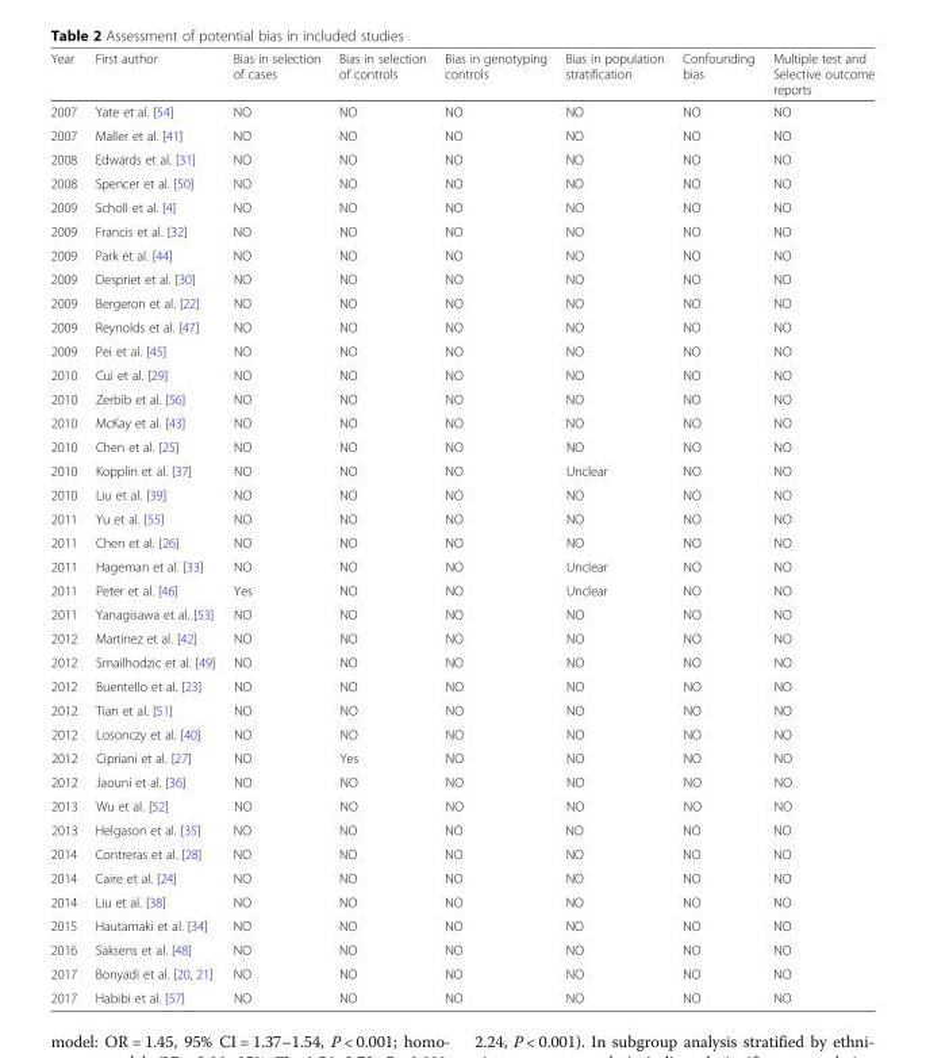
<table><thead><tr><td>Year</td><td>First author</td><td>Bias in selection of cases</td><td>Bias in selection of controls</td><td>Bias in genotyping controls</td><td>Bias in population stratification</td><td>Confounding bias</td><td>Multiple test and Selective outcome reports</td></tr></thead><tbody><tr><td>2007</td><td>Yate et al. [54]</td><td>NO</td><td>NO</td><td>NO</td><td>NO</td><td>NO</td><td>NO</td></tr><tr><td>2007</td><td>Maller et al. [41]</td><td>NO</td><td>NO</td><td>NO</td><td>NO</td><td>NO</td><td>NO</td></tr><tr><td>2008</td><td>Edwards et al. [31]</td><td>NO</td><td>NO</td><td>NO</td><td>NO</td><td>NO</td><td>NO</td></tr><tr><td>2008</td><td>Spencer et al. [50]</td><td>NO</td><td>NO</td><td>NO</td><td>NO</td><td>NO</td><td>NO</td></tr><tr><td>2009</td><td>Scholl et al. [4]</td><td>NO</td><td>NO</td><td>NO</td><td>NO</td><td>NO</td><td>NO</td></tr><tr><td>2009</td><td>Francis et al. [32]</td><td>NO</td><td>NO</td><td>NO</td><td>NO</td><td>NO</td><td>NO</td></tr><tr><td>2009</td><td>Park et al. [44]</td><td>NO</td><td>NO</td><td>NO</td><td>NO</td><td>NO</td><td>NO</td></tr><tr><td>2009</td><td>Despriet et al. [30]</td><td>NO</td><td>NO</td><td>NO</td><td>NO</td><td>NO</td><td>NO</td></tr><tr><td>2009</td><td>Bergeron et al. [22]</td><td>NO</td><td>NO</td><td>NO</td><td>NO</td><td>NO</td><td>NO</td></tr><tr><td>2009</td><td>Reynolds et al. [47]</td><td>NO</td><td>NO</td><td>NO</td><td>NO</td><td>NO</td><td>NO</td></tr><tr><td>2009</td><td>Pei et al. [45]</td><td>NO</td><td>NO</td><td>NO</td><td>NO</td><td>NO</td><td>NO</td></tr><tr><td>2010</td><td>Cui et al. [29]</td><td>NO</td><td>NO</td><td>NO</td><td>NO</td><td>NO</td><td>NO</td></tr><tr><td>2010</td><td>Zerbib et al. [56]</td><td>NO</td><td>NO</td><td>NO</td><td>NO</td><td>NO</td><td>NO</td></tr><tr><td>2010</td><td>McKay et al. [43]</td><td>NO</td><td>NO</td><td>NO</td><td>NO</td><td>NO</td><td>NO</td></tr><tr><td>2010</td><td>Chen et al. [25]</td><td>NO</td><td>NO</td><td>NO</td><td>NO</td><td>NO</td><td>NO</td></tr><tr><td>2010</td><td>Kopplin et al. [37]</td><td>NO</td><td>NO</td><td>NO</td><td>Unclear</td><td>NO</td><td>NO</td></tr><tr><td>2010</td><td>Liu et al. [39]</td><td>NO</td><td>NO</td><td>NO</td><td>NO</td><td>NO</td><td>NO</td></tr><tr><td>2011</td><td>Yu et al. [55]</td><td>NO</td><td>NO</td><td>NO</td><td>NO</td><td>NO</td><td>NO</td></tr><tr><td>2011</td><td>Chen et al. [26]</td><td>NO</td><td>NO</td><td>NO</td><td>NO</td><td>NO</td><td>NO</td></tr><tr><td>2011</td><td>Hageman et al. [33]</td><td>NO</td><td>NO</td><td>NO</td><td>Unclear</td><td>NO</td><td>NO</td></tr><tr><td>2011</td><td>Peter et al. [46]</td><td>Yes</td><td>NO</td><td>NO</td><td>Unclear</td><td>NO</td><td>NO</td></tr><tr><td>2011</td><td>Yanagisawa et al. [53]</td><td>NO</td><td>NO</td><td>NO</td><td>NO</td><td>NO</td><td>NO</td></tr><tr><td>2012</td><td>Martinez et al. [42]</td><td>NO</td><td>NO</td><td>NO</td><td>NO</td><td>NO</td><td>NO</td></tr><tr><td>2012</td><td>Smailhodzic et al. [49]</td><td>NO</td><td>NO</td><td>NO</td><td>NO</td><td>NO</td><td>NO</td></tr><tr><td>2012</td><td>Buentello et al. [23]</td><td>NO</td><td>NO</td><td>NO</td><td>NO</td><td>NO</td><td>NO</td></tr><tr><td>2012</td><td>Tian et al. [51]</td><td>NO</td><td>NO</td><td>NO</td><td>NO</td><td>NO</td><td>NO</td></tr><tr><td>2012</td><td>Losonczy et al. [40]</td><td>NO</td><td>NO</td><td>NO</td><td>NO</td><td>NO</td><td>NO</td></tr><tr><td>2012</td><td>Cipriani et al. [27]</td><td>NO</td><td>Yes</td><td>NO</td><td>NO</td><td>NO</td><td>NO</td></tr><tr><td>2012</td><td>Jaouni et al. [36]</td><td>NO</td><td>NO</td><td>NO</td><td>NO</td><td>NO</td><td>NO</td></tr><tr><td>2013</td><td>Wu et al. [52]</td><td>NO</td><td>NO</td><td>NO</td><td>NO</td><td>NO</td><td>NO</td></tr><tr><td>2013</td><td>Helgason et al. [35]</td><td>NO</td><td>NO</td><td>NO</td><td>NO</td><td>NO</td><td>NO</td></tr><tr><td>2014</td><td>Contreras et al. [28]</td><td>NO</td><td>NO</td><td>NO</td><td>NO</td><td>NO</td><td>NO</td></tr><tr><td>2014</td><td>Caire et al. [24]</td><td>NO</td><td>NO</td><td>NO</td><td>NO</td><td>NO</td><td>NO</td></tr><tr><td>2014</td><td>Liu et al. [38]</td><td>NO</td><td>NO</td><td>NO</td><td>NO</td><td>NO</td><td>NO</td></tr><tr><td>2015</td><td>Hautamaki et al. [34]</td><td>NO</td><td>NO</td><td>NO</td><td>NO</td><td>NO</td><td>NO</td></tr><tr><td>2016</td><td>Saksens et al. [48]</td><td>NO</td><td>NO</td><td>NO</td><td>NO</td><td>NO</td><td>NO</td></tr><tr><td>2017</td><td>Bonyadi et al. [20, 21]</td><td>NO</td><td>NO</td><td>NO</td><td>NO</td><td>NO</td><td>NO</td></tr><tr><td>2017</td><td>Habibi et al. [57]</td><td>NO</td><td>NO</td><td>NO</td><td>NO</td><td>NO</td><td>NO</td></tr></tbody></table>